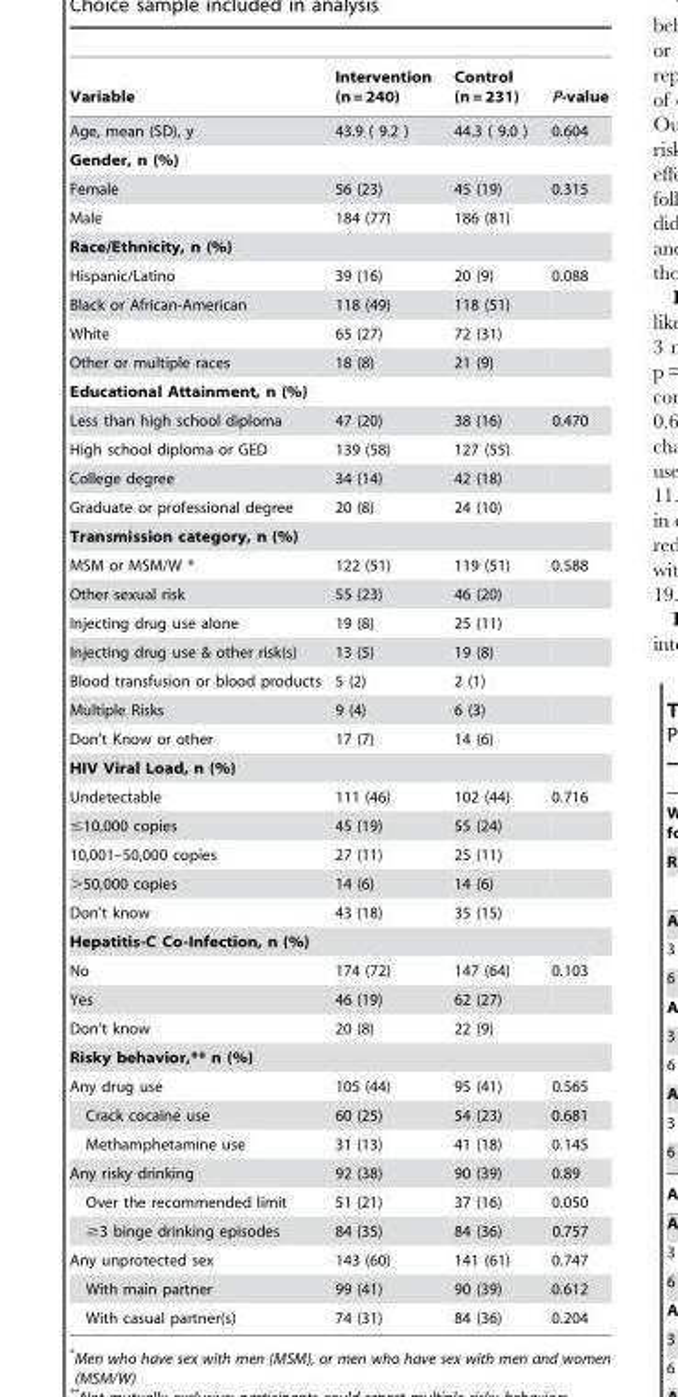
<table><thead><tr><td>Variable</td><td>Intervention (n = 240)</td><td>Control (n = 231)</td><td>P-value</td></tr></thead><tbody><tr><td>Age, mean (SD), y</td><td>43.9 ( 9.2 )</td><td>44.3 ( 9.0 )</td><td>0.604</td></tr><tr><td colspan="4">Gender, n (%)</td></tr><tr><td>Female</td><td>56 (23)</td><td>45 (19)</td><td>0.315</td></tr><tr><td>Male</td><td>184 (77)</td><td>186 (81)</td><td></td></tr><tr><td colspan="4">Race/Ethnicity, n (%)</td></tr><tr><td>Hispanic/Latino</td><td>39 (16)</td><td>20 (9)</td><td>0.088</td></tr><tr><td>Black or African-American</td><td>118 (49)</td><td>118 (51)</td><td></td></tr><tr><td>White</td><td>65 (27)</td><td>72 (31)</td><td></td></tr><tr><td>Other or multiple races</td><td>18 (8)</td><td>21 (9)</td><td></td></tr><tr><td colspan="4">Educational Attainment, n (%)</td></tr><tr><td>Less than high school diploma</td><td>47 (20)</td><td>38 (16)</td><td>0.470</td></tr><tr><td>High school diploma or GED</td><td>139 (58)</td><td>127 (55)</td><td></td></tr><tr><td>College degree</td><td>34 (14)</td><td>42 (18)</td><td></td></tr><tr><td>Graduate or professional degree</td><td>20 (8)</td><td>24 (10)</td><td></td></tr><tr><td colspan="4">Transmission category, n (%)</td></tr><tr><td>MSM or MSM/W *</td><td>122 (51)</td><td>119 (51)</td><td>0.588</td></tr><tr><td>Other sexual risk</td><td>55 (23)</td><td>46 (20)</td><td></td></tr><tr><td>Injecting drug use alone</td><td>19 (8)</td><td>25 (11)</td><td></td></tr><tr><td>Injecting drug use &amp; other risk(s)</td><td>13 (5)</td><td>19 (8)</td><td></td></tr><tr><td>Blood transfusion or blood products</td><td>5 (2)</td><td>2 (1)</td><td></td></tr><tr><td>Multiple Risks</td><td>9 (4)</td><td>6 (3)</td><td></td></tr><tr><td>Don’t Know or other</td><td>17 (7)</td><td>14 (6)</td><td></td></tr><tr><td colspan="4">HIV Viral Load, n (%)</td></tr><tr><td>Undetectable</td><td>111 (46)</td><td>102 (44)</td><td>0.716</td></tr><tr><td>≤10,000 copies</td><td>45 (19)</td><td>55 (24)</td><td></td></tr><tr><td>10,001–50,000 copies</td><td>27 (11)</td><td>25 (11)</td><td></td></tr><tr><td>&gt;50,000 copies</td><td>14 (6)</td><td>14 (6)</td><td></td></tr><tr><td>Don’t know</td><td>43 (18)</td><td>35 (15)</td><td></td></tr><tr><td colspan="4">Hepatitis-C Co-Infection, n (%)</td></tr><tr><td>No</td><td>174 (72)</td><td>147 (64)</td><td>0.103</td></tr><tr><td>Yes</td><td>46 (19)</td><td>62 (27)</td><td></td></tr><tr><td>Don’t know</td><td>20 (8)</td><td>22 (9)</td><td></td></tr><tr><td colspan="4">Risky behavior,** n (%)</td></tr><tr><td>Any drug use</td><td>105 (44)</td><td>95 (41)</td><td>0.565</td></tr><tr><td>Crack cocaine use</td><td>60 (25)</td><td>54 (23)</td><td>0.681</td></tr><tr><td>Methamphetamine use</td><td>31 (13)</td><td>41 (18)</td><td>0.145</td></tr><tr><td>Any risky drinking</td><td>92 (38)</td><td>90 (39)</td><td>0.89</td></tr><tr><td>Over the recommended limit</td><td>51 (21)</td><td>37 (16)</td><td>0.050</td></tr><tr><td>≥3 binge drinking episodes</td><td>84 (35)</td><td>84 (36)</td><td>0.757</td></tr><tr><td>Any unprotected sex</td><td>143 (60)</td><td>141 (61)</td><td>0.747</td></tr><tr><td>With main partner</td><td>99 (41)</td><td>90 (39)</td><td>0.612</td></tr><tr><td>With casual partner(s)</td><td>74 (31)</td><td>84 (36)</td><td>0.204</td></tr></tbody></table>